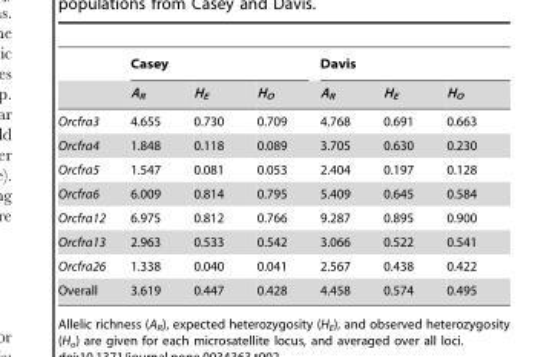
<table><thead><tr><td rowspan="2"></td><td colspan="3">Casey</td><td colspan="3">Davis</td></tr><tr><td>A<sub>R</sub></td><td>H<sub>E</sub></td><td>H<sub>O</sub></td><td>A<sub>R</sub></td><td>H<sub>E</sub></td><td>H<sub>O</sub></td></tr></thead><tbody><tr><td>Orcfra3</td><td>4.655</td><td>0.730</td><td>0.709</td><td>4.768</td><td>0.691</td><td>0.663</td></tr><tr><td>Orcfra4</td><td>1.848</td><td>0.118</td><td>0.089</td><td>3.705</td><td>0.630</td><td>0.230</td></tr><tr><td>Orcfra5</td><td>1.547</td><td>0.081</td><td>0.053</td><td>2.404</td><td>0.197</td><td>0.128</td></tr><tr><td>Orcfra6</td><td>6.009</td><td>0.814</td><td>0.795</td><td>5.409</td><td>0.645</td><td>0.584</td></tr><tr><td>Orcfra12</td><td>6.975</td><td>0.812</td><td>0.766</td><td>9.287</td><td>0.895</td><td>0.900</td></tr><tr><td>Orcfra13</td><td>2.963</td><td>0.533</td><td>0.542</td><td>3.066</td><td>0.522</td><td>0.541</td></tr><tr><td>Orcfra26</td><td>1.338</td><td>0.040</td><td>0.041</td><td>2.567</td><td>0.438</td><td>0.422</td></tr><tr><td>Overall</td><td>3.619</td><td>0.447</td><td>0.428</td><td>4.458</td><td>0.574</td><td>0.495</td></tr></tbody></table>